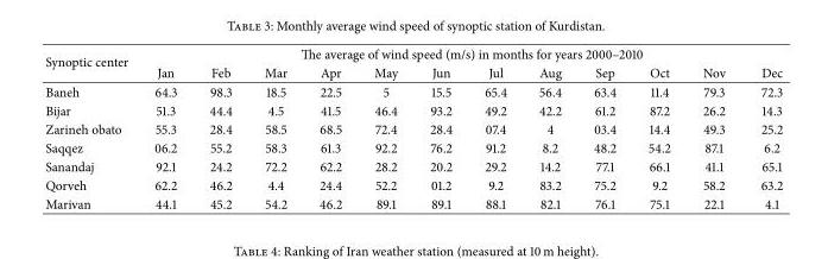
<table><thead><tr><td rowspan="2">Synoptic center</td><td colspan="12">The average of wind speed (m/s) in months for years 2000–2010</td></tr><tr><td>Jan</td><td>Feb</td><td>Mar</td><td>Apr</td><td>May</td><td>Jun</td><td>Jul</td><td>Aug</td><td>Sep</td><td>Oct</td><td>Nov</td><td>Dec</td></tr></thead><tbody><tr><td>Baneh</td><td>64.3</td><td>98.3</td><td>18.5</td><td>22.5</td><td>5</td><td>15.5</td><td>65.4</td><td>56.4</td><td>63.4</td><td>11.4</td><td>79.3</td><td>72.3</td></tr><tr><td>Bijar</td><td>51.3</td><td>44.4</td><td>4.5</td><td>41.5</td><td>46.4</td><td>93.2</td><td>49.2</td><td>42.2</td><td>61.2</td><td>87.2</td><td>26.2</td><td>14.3</td></tr><tr><td>Zarineh obato</td><td>55.3</td><td>28.4</td><td>58.5</td><td>68.5</td><td>72.4</td><td>28.4</td><td>07.4</td><td>4</td><td>03.4</td><td>14.4</td><td>49.3</td><td>25.2</td></tr><tr><td>Saqqez</td><td>06.2</td><td>55.2</td><td>58.3</td><td>61.3</td><td>92.2</td><td>76.2</td><td>91.2</td><td>8.2</td><td>48.2</td><td>54.2</td><td>87.1</td><td>6.2</td></tr><tr><td>Sanandaj</td><td>92.1</td><td>24.2</td><td>72.2</td><td>62.2</td><td>28.2</td><td>20.2</td><td>29.2</td><td>14.2</td><td>77.1</td><td>66.1</td><td>41.1</td><td>65.1</td></tr><tr><td>Qorveh</td><td>62.2</td><td>46.2</td><td>4.4</td><td>24.4</td><td>52.2</td><td>01.2</td><td>9.2</td><td>83.2</td><td>75.2</td><td>9.2</td><td>58.2</td><td>63.2</td></tr><tr><td>Marivan</td><td>44.1</td><td>45.2</td><td>54.2</td><td>46.2</td><td>89.1</td><td>89.1</td><td>88.1</td><td>82.1</td><td>76.1</td><td>75.1</td><td>22.1</td><td>4.1</td></tr></tbody></table>